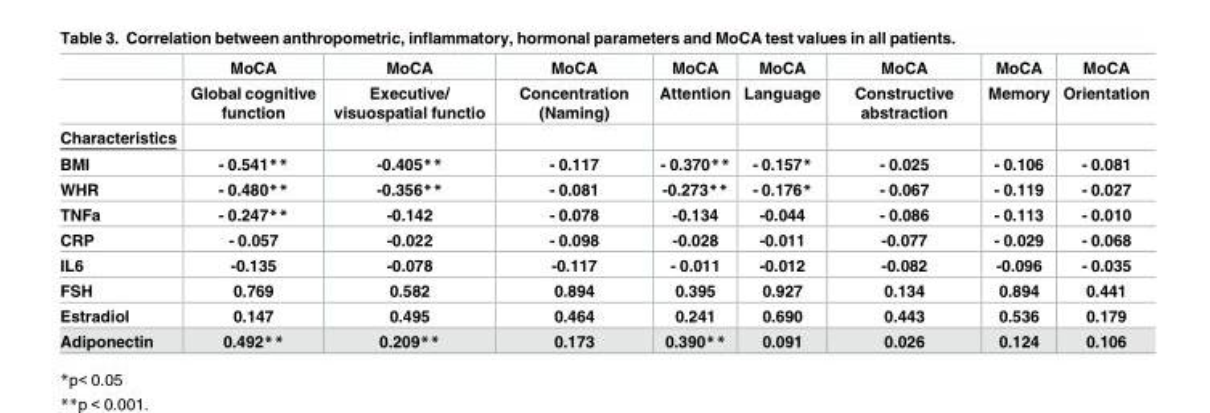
<table><thead><tr><td rowspan="2"></td><td rowspan="2">MoCA Global cognitive function</td><td rowspan="2">MoCA Executive/ visuospatial functio</td><td rowspan="2">MoCA Concentration (Naming)</td><td rowspan="2">MoCA Attention</td><td rowspan="2">MoCA Language</td><td rowspan="2">MoCA Constructive abstraction</td><td rowspan="2">MoCA Memory</td><td rowspan="2">MoCA Orientation</td></tr><tr></tr></thead><tbody><tr><td colspan="9">Characteristics</td></tr><tr><td>BMI</td><td>- 0.541**</td><td>-0.405**</td><td>- 0.117</td><td>- 0.370**</td><td>- 0.157*</td><td>- 0.025</td><td>- 0.106</td><td>- 0.081</td></tr><tr><td>WHR</td><td>- 0.480**</td><td>-0.356**</td><td>- 0.081</td><td>-0.273**</td><td>- 0.176*</td><td>- 0.067</td><td>- 0.119</td><td>- 0.027</td></tr><tr><td>TNFa</td><td>- 0.247**</td><td>-0.142</td><td>- 0.078</td><td>-0.134</td><td>-0.044</td><td>- 0.086</td><td>- 0.113</td><td>- 0.010</td></tr><tr><td>CRP</td><td>- 0.057</td><td>-0.022</td><td>- 0.098</td><td>-0.028</td><td>-0.011</td><td>-0.077</td><td>- 0.029</td><td>- 0.068</td></tr><tr><td>IL6</td><td>-0.135</td><td>-0.078</td><td>-0.117</td><td>- 0.011</td><td>-0.012</td><td>-0.082</td><td>-0.096</td><td>- 0.035</td></tr><tr><td>FSH</td><td>0.769</td><td>0.582</td><td>0.894</td><td>0.395</td><td>0.927</td><td>0.134</td><td>0.894</td><td>0.441</td></tr><tr><td>Estradiol</td><td>0.147</td><td>0.495</td><td>0.464</td><td>0.241</td><td>0.690</td><td>0.443</td><td>0.536</td><td>0.179</td></tr><tr><td>Adiponectin</td><td>0.492**</td><td>0.209**</td><td>0.173</td><td>0.390**</td><td>0.091</td><td>0.026</td><td>0.124</td><td>0.106</td></tr></tbody></table>